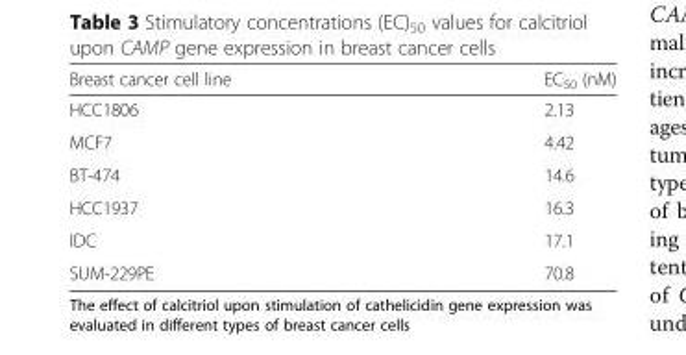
<table><thead><tr><td>Breast cancer cell line</td><td>EC<sub>50</sub> (nM)</td></tr></thead><tbody><tr><td>HCC1806</td><td>2.13</td></tr><tr><td>MCF7</td><td>4.42</td></tr><tr><td>BT-474</td><td>14.6</td></tr><tr><td>HCC1937</td><td>16.3</td></tr><tr><td>IDC</td><td>17.1</td></tr><tr><td>SUM-229PE</td><td>70.8</td></tr></tbody></table>